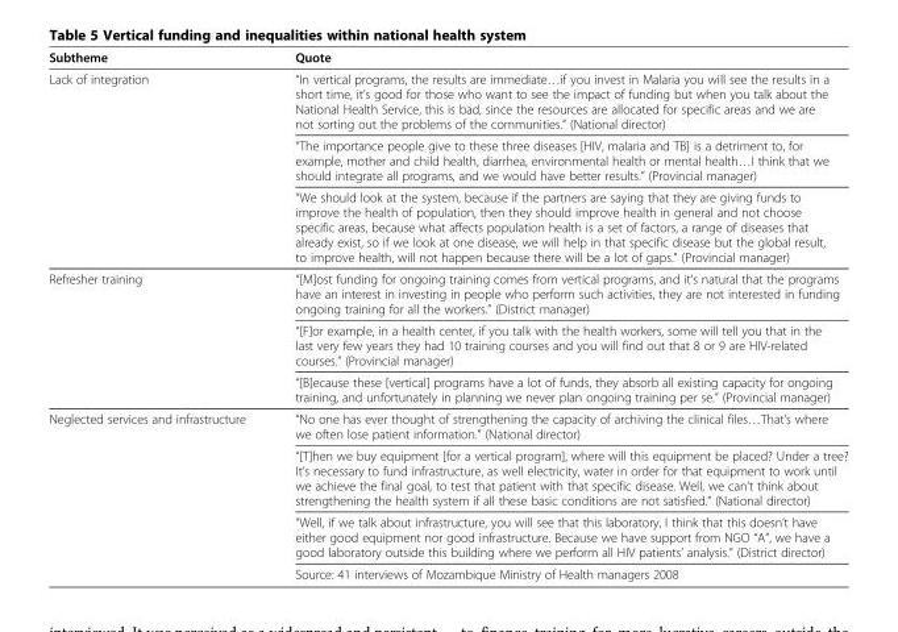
<table><thead><tr><td>Subtheme</td><td>Quote</td></tr></thead><tbody><tr><td rowspan="3">Lack of integration</td><td>“In vertical programs, the results are immediate…if you invest in Malaria you will see the results in a short time, it’s good for those who want to see the impact of funding but when you talk about the National Health Service, this is bad, since the resources are allocated for specific areas and we are not sorting out the problems of the communities.” (National director)</td></tr><tr><td>“The importance people give to these three diseases [HIV, malaria and TB] is a detriment to, for example, mother and child health, diarrhea, environmental health or mental health…I think that we should integrate all programs, and we would have better results.” (Provincial manager)</td></tr><tr><td>“We should look at the system, because if the partners are saying that they are giving funds to improve the health of population, then they should improve health in general and not choose specific areas, because what affects population health is a set of factors, a range of diseases that already exist, so if we look at one disease, we will help in that specific disease but the global result, to improve health, will not happen because there will be a lot of gaps.” (Provincial manager)</td></tr><tr><td rowspan="3">Refresher training</td><td>“[M]ost funding for ongoing training comes from vertical programs, and it’s natural that the programs have an interest in investing in people who perform such activities, they are not interested in funding ongoing training for all the workers.” (District manager)</td></tr><tr><td>“[F]or example, in a health center, if you talk with the health workers, some will tell you that in the last very few years they had 10 training courses and you will find out that 8 or 9 are HIV-related courses.” (Provincial manager)</td></tr><tr><td>“[B]ecause these [vertical] programs have a lot of funds, they absorb all existing capacity for ongoing training, and unfortunately in planning we never plan ongoing training per se.” (Provincial manager)</td></tr><tr><td rowspan="4">Neglected services and infrastructure</td><td>“No one has ever thought of strengthening the capacity of archiving the clinical files…That’s where we often lose patient information.” (National director)</td></tr><tr><td>“[T]hen we buy equipment [for a vertical program], where will this equipment be placed? Under a tree? It’s necessary to fund infrastructure, as well electricity, water in order for that equipment to work until we achieve the final goal, to test that patient with that specific disease. Well, we can’t think about strengthening the health system if all these basic conditions are not satisfied.” (National director)</td></tr><tr><td>“Well, if we talk about infrastructure, you will see that this laboratory, I think that this doesn’t have either good equipment nor good infrastructure. Because we have support from NGO “A”, we have a good laboratory outside this building where we perform all HIV patients’ analysis.” (District director)</td></tr><tr><td>Source: 41 interviews of Mozambique Ministry of Health managers 2008</td></tr></tbody></table>